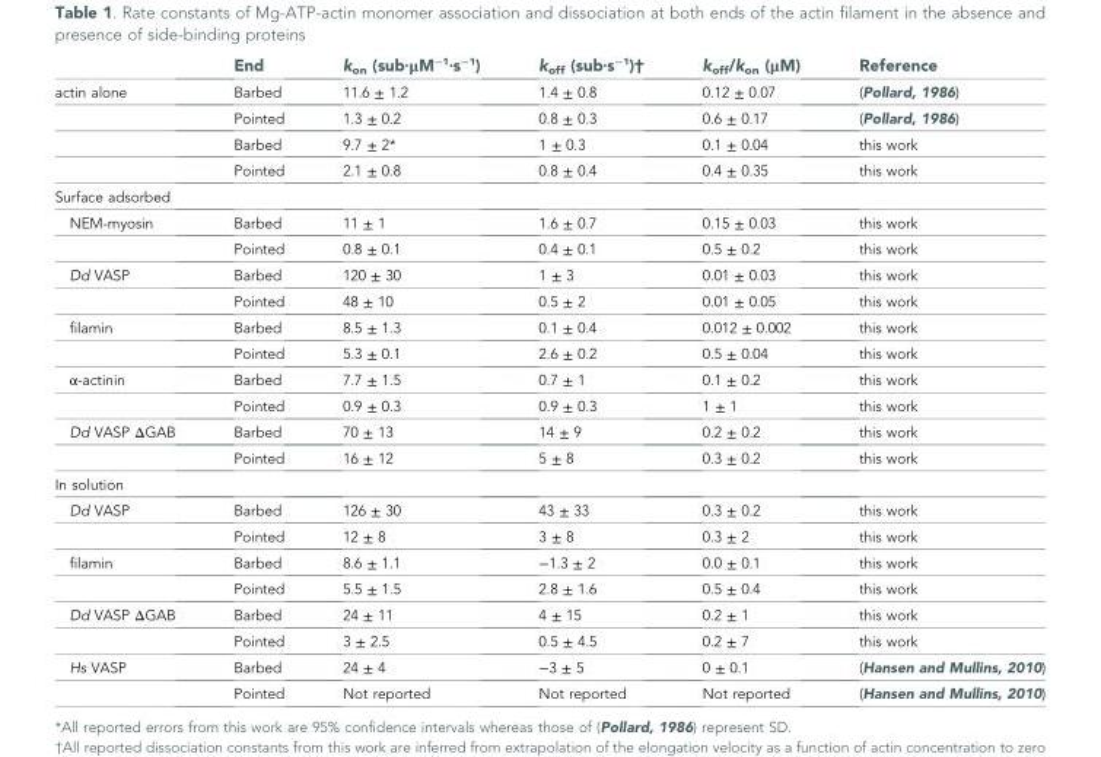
<table><thead><tr><td></td><td>End</td><td>k<sub>on</sub> (sub·μM<sup>−1</sup>·s<sup>−1</sup>)</td><td>k<sub>off</sub> (sub·s<sup>−1</sup>)<sup>†</sup></td><td>k<sub>off</sub>/k<sub>on</sub> (μM)</td><td>Reference</td></tr></thead><tbody><tr><td rowspan="4">actin alone</td><td>Barbed</td><td>11.6 ± 1.2</td><td>1.4 ± 0.8</td><td>0.12 ± 0.07</td><td>(Pollard, 1986)</td></tr><tr><td>Pointed</td><td>1.3 ± 0.2</td><td>0.8 ± 0.3</td><td>0.6 ± 0.17</td><td>(Pollard, 1986)</td></tr><tr><td>Barbed</td><td>9.7 ± 2*</td><td>1 ± 0.3</td><td>0.1 ± 0.04</td><td>this work</td></tr><tr><td>Pointed</td><td>2.1 ± 0.8</td><td>0.8 ± 0.4</td><td>0.4 ± 0.35</td><td>this work</td></tr><tr><td colspan="6">Surface adsorbed</td></tr><tr><td rowspan="2">NEM-myosin</td><td>Barbed</td><td>11 ± 1</td><td>1.6 ± 0.7</td><td>0.15 ± 0.03</td><td>this work</td></tr><tr><td>Pointed</td><td>0.8 ± 0.1</td><td>0.4 ± 0.1</td><td>0.5 ± 0.2</td><td>this work</td></tr><tr><td rowspan="2">Dd VASP</td><td>Barbed</td><td>120 ± 30</td><td>1 ± 3</td><td>0.01 ± 0.03</td><td>this work</td></tr><tr><td>Pointed</td><td>48 ± 10</td><td>0.5 ± 2</td><td>0.01 ± 0.05</td><td>this work</td></tr><tr><td rowspan="2">filamin</td><td>Barbed</td><td>8.5 ± 1.3</td><td>0.1 ± 0.4</td><td>0.012 ± 0.002</td><td>this work</td></tr><tr><td>Pointed</td><td>5.3 ± 0.1</td><td>2.6 ± 0.2</td><td>0.5 ± 0.04</td><td>this work</td></tr><tr><td rowspan="2">α-actinin</td><td>Barbed</td><td>7.7 ± 1.5</td><td>0.7 ± 1</td><td>0.1 ± 0.2</td><td>this work</td></tr><tr><td>Pointed</td><td>0.9 ± 0.3</td><td>0.9 ± 0.3</td><td>1 ± 1</td><td>this work</td></tr><tr><td rowspan="2">Dd VASP ΔGAB</td><td>Barbed</td><td>70 ± 13</td><td>14 ± 9</td><td>0.2 ± 0.2</td><td>this work</td></tr><tr><td>Pointed</td><td>16 ± 12</td><td>5 ± 8</td><td>0.3 ± 0.2</td><td>this work</td></tr><tr><td colspan="6">In solution</td></tr><tr><td rowspan="2">Dd VASP</td><td>Barbed</td><td>126 ± 30</td><td>43 ± 33</td><td>0.3 ± 0.2</td><td>this work</td></tr><tr><td>Pointed</td><td>12 ± 8</td><td>3 ± 8</td><td>0.3 ± 2</td><td>this work</td></tr><tr><td rowspan="2">filamin</td><td>Barbed</td><td>8.6 ± 1.1</td><td>−1.3 ± 2</td><td>0.0 ± 0.1</td><td>this work</td></tr><tr><td>Pointed</td><td>5.5 ± 1.5</td><td>2.8 ± 1.6</td><td>0.5 ± 0.4</td><td>this work</td></tr><tr><td rowspan="2">Dd VASP ΔGAB</td><td>Barbed</td><td>24 ± 11</td><td>4 ± 15</td><td>0.2 ± 1</td><td>this work</td></tr><tr><td>Pointed</td><td>3 ± 2.5</td><td>0.5 ± 4.5</td><td>0.2 ± 7</td><td>this work</td></tr><tr><td rowspan="2">Hs VASP</td><td>Barbed</td><td>24 ± 4</td><td>−3 ± 5</td><td>0 ± 0.1</td><td>(Hansen and Mullins, 2010)</td></tr><tr><td>Pointed</td><td>Not reported</td><td>Not reported</td><td>Not reported</td><td>(Hansen and Mullins, 2010)</td></tr></tbody></table>